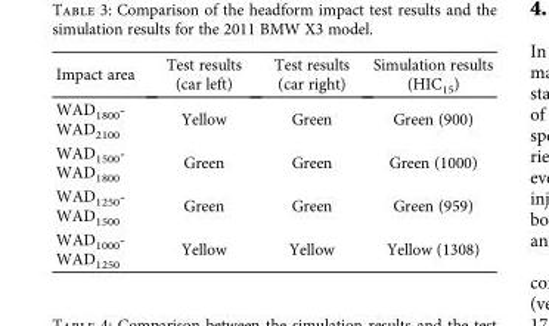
<table><thead><tr><td>Impact area</td><td>Test results (car left)</td><td>Test results (car right)</td><td>Simulation results (HIC<sub>15</sub>)</td></tr></thead><tbody><tr><td>WAD<sub>1800</sub>- WAD<sub>2100</sub></td><td>Yellow</td><td>Green</td><td>Green (900)</td></tr><tr><td>WAD<sub>1500</sub>- WAD<sub>1800</sub></td><td>Green</td><td>Green</td><td>Green (1000)</td></tr><tr><td>WAD<sub>1250</sub>- WAD<sub>1500</sub></td><td>Green</td><td>Green</td><td>Green (959)</td></tr><tr><td>WAD<sub>1000</sub>- WAD<sub>1250</sub></td><td>Yellow</td><td>Yellow</td><td>Yellow (1308)</td></tr></tbody></table>